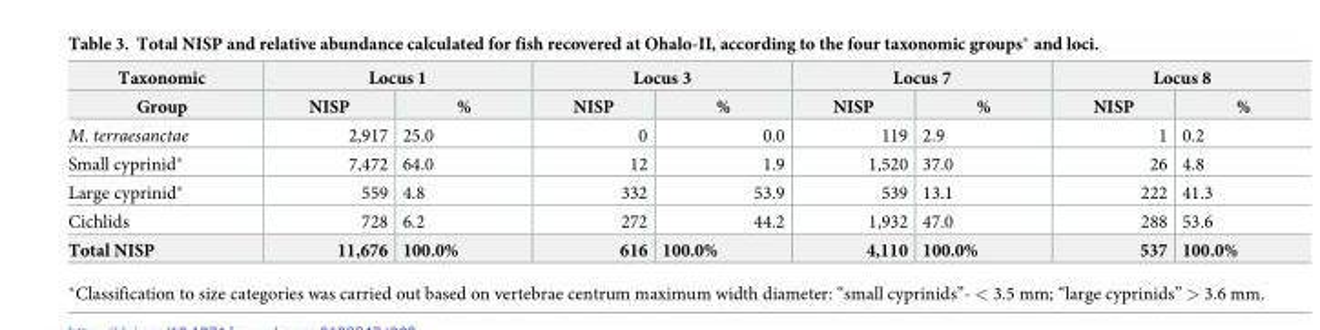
<table><thead><tr><td rowspan="2">Taxonomic Group</td><td colspan="2">Locus 1</td><td colspan="2">Locus 3</td><td colspan="2">Locus 7</td><td colspan="2">Locus 8</td></tr><tr><td>NISP</td><td>%</td><td>NISP</td><td>%</td><td>NISP</td><td>%</td><td>NISP</td><td>%</td></tr></thead><tbody><tr><td>M. terraesanctae</td><td>2,917</td><td>25.0</td><td>0</td><td>0.0</td><td>119</td><td>2.9</td><td>1</td><td>0.2</td></tr><tr><td>Small cyprinid*</td><td>7,472</td><td>64.0</td><td>12</td><td>1.9</td><td>1,520</td><td>37.0</td><td>26</td><td>4.8</td></tr><tr><td>Large cyprinid*</td><td>559</td><td>4.8</td><td>332</td><td>53.9</td><td>539</td><td>13.1</td><td>222</td><td>41.3</td></tr><tr><td>Cichlids</td><td>728</td><td>6.2</td><td>272</td><td>44.2</td><td>1,932</td><td>47.0</td><td>288</td><td>53.6</td></tr><tr><td>Total NISP</td><td>11,676</td><td>100.0%</td><td>616</td><td>100.0%</td><td>4,110</td><td>100.0%</td><td>537</td><td>100.0%</td></tr></tbody></table>